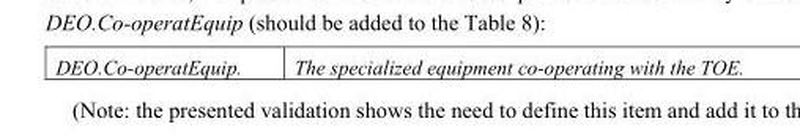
<table><tbody><tr><td>DEO.Co-operatEquip.</td><td>The specialized equipment co-operating with the TOE.</td></tr></tbody></table>